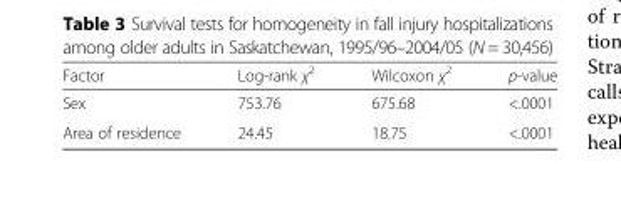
<table><thead><tr><td>Factor</td><td>Log-rank χ<sup>2</sup></td><td>Wilcoxon χ<sup>2</sup></td><td>p-value</td></tr></thead><tbody><tr><td>Sex</td><td>753.76</td><td>675.68</td><td>&lt;.0001</td></tr><tr><td>Area of residence</td><td>24.45</td><td>18.75</td><td>&lt;.0001</td></tr></tbody></table>